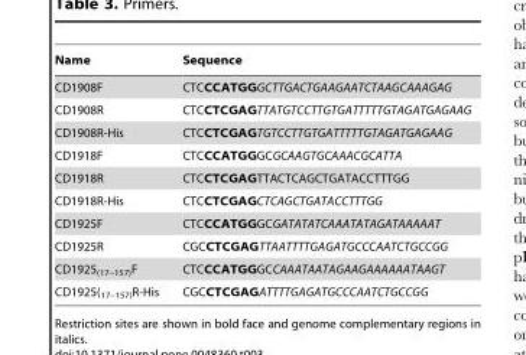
<table><thead><tr><td>Name</td><td>Sequence</td></tr></thead><tbody><tr><td>CD1908F</td><td>CTCCCATGGGCTTGACTGAAGAATCTAAGCAAAGAG</td></tr><tr><td>CD1908R</td><td>CTCCTCGAGTTATGTCCTTGTGATTTTTGTAGATGAGAAG</td></tr><tr><td>CD1908R-His</td><td>CTCCTCGAGTGTCCTTGTGATTTTTGTAGATGAGAAG</td></tr><tr><td>CD1918F</td><td>CTCCCATGGGCGCAAGTGCAAACGCATTA</td></tr><tr><td>CD1918R</td><td>CTCCTCGAGTTACTCAGCTGATACCTTTGG</td></tr><tr><td>CD1918R-His</td><td>CTCCTCGAGCTCAGCTGATACCTTTGG</td></tr><tr><td>CD1925F</td><td>CTCCCATGGGCGATATATCAAATATAGATAAAAAT</td></tr><tr><td>CD1925R</td><td>CGCCTCGAGTTAATTTTGAGATGCCCAATCTGCCGG</td></tr><tr><td>CD1925<sub>(17–157)</sub>F</td><td>CTCCCATGGGCCAAATAATAGAAGAAAAAATAAGT</td></tr><tr><td>CD1925(<sub>17–157)</sub>R-His</td><td>CGCCTCGAGATTTTGAGATGCCCAATCTGCCGG</td></tr></tbody></table>